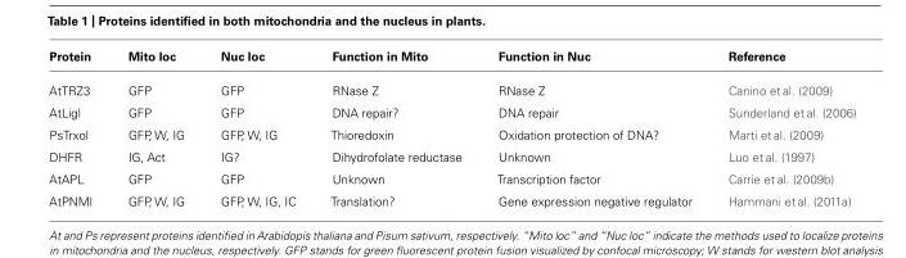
<table><thead><tr><td>Protein</td><td>Mito loc</td><td>Nuc loc</td><td>Function in Mito</td><td>Function in Nuc</td><td>Reference</td></tr></thead><tbody><tr><td>AtTRZ3</td><td>GFP</td><td>GFP</td><td>RNase Z</td><td>RNase Z</td><td>Canino et al. (2009)</td></tr><tr><td>AtLigl</td><td>GFP</td><td>GFP</td><td>DNA repair?</td><td>DNA repair</td><td>Sunderland et al. (2006)</td></tr><tr><td>PsTrxol</td><td>GFP, W, IG</td><td>GFP, W, IG</td><td>Thioredoxin</td><td>Oxidation protection of DNA?</td><td>Marti et al. (2009)</td></tr><tr><td>DHFR</td><td>IG, Act</td><td>IG?</td><td>Dihydrofolate reductase</td><td>Unknown</td><td>Luo et al. (1997)</td></tr><tr><td>AtAPL</td><td>GFP</td><td>GFP</td><td>Unknown</td><td>Transcription factor</td><td>Carrie et al. (2009b)</td></tr><tr><td>AtPNMl</td><td>GFP, W, IG</td><td>GFP, W, IG, IC</td><td>Translation?</td><td>Gene expression negative regulator</td><td>Hammani et al. (2011a)</td></tr></tbody></table>